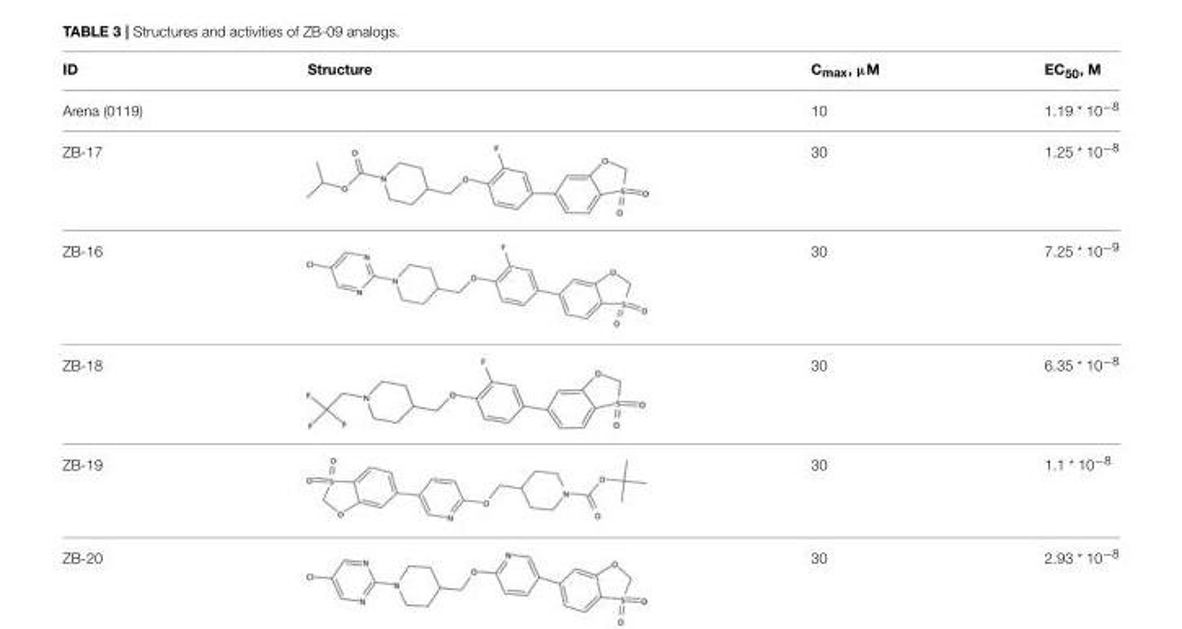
<table><thead><tr><td>ID</td><td>Structure</td><td>C<sub>max</sub>, µM</td><td>EC<sub>50</sub>, M</td></tr></thead><tbody><tr><td>Arena (0119)</td><td></td><td>10</td><td>1.19 * 10<sup>−8</sup></td></tr><tr><td>ZB-17</td><td></td><td>30</td><td>1.25 * 10<sup>−8</sup></td></tr><tr><td>ZB-16</td><td></td><td>30</td><td>7.25 * 10<sup>−9</sup></td></tr><tr><td>ZB-18</td><td></td><td>30</td><td>6.35 * 10<sup>−8</sup></td></tr><tr><td>ZB-19</td><td></td><td>30</td><td>1.1 * 10<sup>−8</sup></td></tr><tr><td>ZB-20</td><td></td><td>30</td><td>2.93 * 10<sup>−8</sup></td></tr></tbody></table>